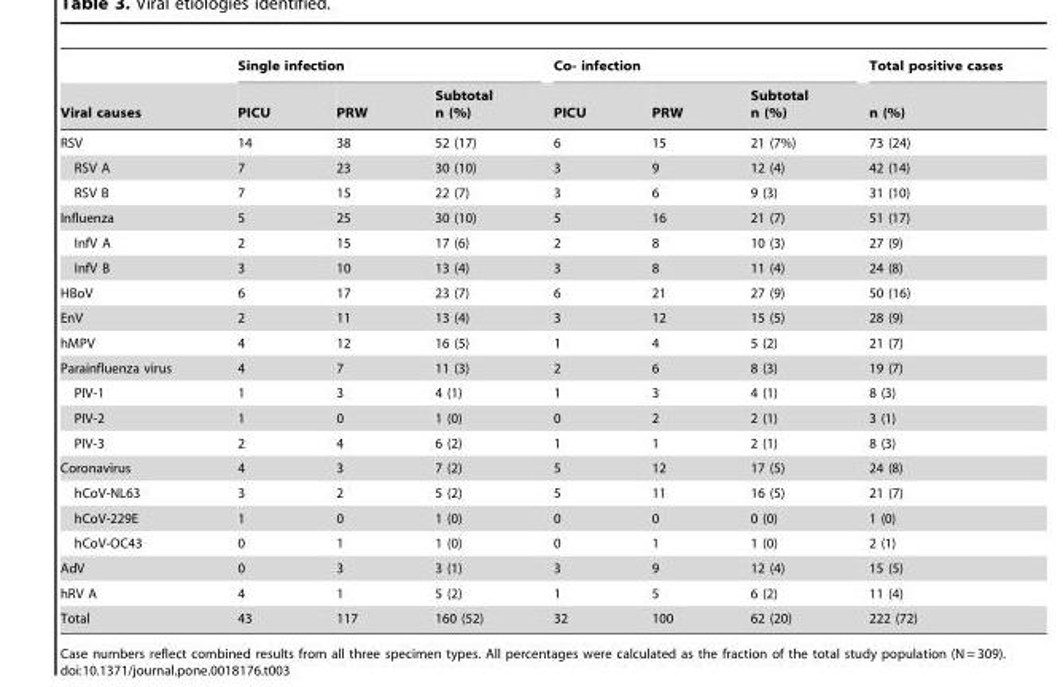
<table><thead><tr><td rowspan="2">Viral causes</td><td colspan="3">Single infection</td><td colspan="3">Co- infection</td><td rowspan="2">Total positive cases n (%)</td></tr><tr><td>PICU</td><td>PRW</td><td>Subtotal n (%)</td><td>PICU</td><td>PRW</td><td>Subtotal n (%)</td></tr></thead><tbody><tr><td>RSV</td><td>14</td><td>38</td><td>52 (17)</td><td>6</td><td>15</td><td>21 (7%)</td><td>73 (24)</td></tr><tr><td>RSV A</td><td>7</td><td>23</td><td>30 (10)</td><td>3</td><td>9</td><td>12 (4)</td><td>42 (14)</td></tr><tr><td>RSV B</td><td>7</td><td>15</td><td>22 (7)</td><td>3</td><td>6</td><td>9 (3)</td><td>31 (10)</td></tr><tr><td>Influenza</td><td>5</td><td>25</td><td>30 (10)</td><td>5</td><td>16</td><td>21 (7)</td><td>51 (17)</td></tr><tr><td>InfV A</td><td>2</td><td>15</td><td>17 (6)</td><td>2</td><td>8</td><td>10 (3)</td><td>27 (9)</td></tr><tr><td>InfV B</td><td>3</td><td>10</td><td>13 (4)</td><td>3</td><td>8</td><td>11 (4)</td><td>24 (8)</td></tr><tr><td>HBoV</td><td>6</td><td>17</td><td>23 (7)</td><td>6</td><td>21</td><td>27 (9)</td><td>50 (16)</td></tr><tr><td>EnV</td><td>2</td><td>11</td><td>13 (4)</td><td>3</td><td>12</td><td>15 (5)</td><td>28 (9)</td></tr><tr><td>hMPV</td><td>4</td><td>12</td><td>16 (5)</td><td>1</td><td>4</td><td>5 (2)</td><td>21 (7)</td></tr><tr><td>Parainfluenza virus</td><td>4</td><td>7</td><td>11 (3)</td><td>2</td><td>6</td><td>8 (3)</td><td>19 (7)</td></tr><tr><td>PIV-1</td><td>1</td><td>3</td><td>4 (1)</td><td>1</td><td>3</td><td>4 (1)</td><td>8 (3)</td></tr><tr><td>PIV-2</td><td>1</td><td>0</td><td>1 (0)</td><td>0</td><td>2</td><td>2 (1)</td><td>3 (1)</td></tr><tr><td>PIV-3</td><td>2</td><td>4</td><td>6 (2)</td><td>1</td><td>1</td><td>2 (1)</td><td>8 (3)</td></tr><tr><td>Coronavirus</td><td>4</td><td>3</td><td>7 (2)</td><td>5</td><td>12</td><td>17 (5)</td><td>24 (8)</td></tr><tr><td>hCoV-NL63</td><td>3</td><td>2</td><td>5 (2)</td><td>5</td><td>11</td><td>16 (5)</td><td>21 (7)</td></tr><tr><td>hCoV-229E</td><td>1</td><td>0</td><td>1 (0)</td><td>0</td><td>0</td><td>0 (0)</td><td>1 (0)</td></tr><tr><td>hCoV-OC43</td><td>0</td><td>1</td><td>1 (0)</td><td>0</td><td>1</td><td>1 (0)</td><td>2 (1)</td></tr><tr><td>AdV</td><td>0</td><td>3</td><td>3 (1)</td><td>3</td><td>9</td><td>12 (4)</td><td>15 (5)</td></tr><tr><td>hRV A</td><td>4</td><td>1</td><td>5 (2)</td><td>1</td><td>5</td><td>6 (2)</td><td>11 (4)</td></tr><tr><td>Total</td><td>43</td><td>117</td><td>160 (52)</td><td>32</td><td>100</td><td>62 (20)</td><td>222 (72)</td></tr></tbody></table>